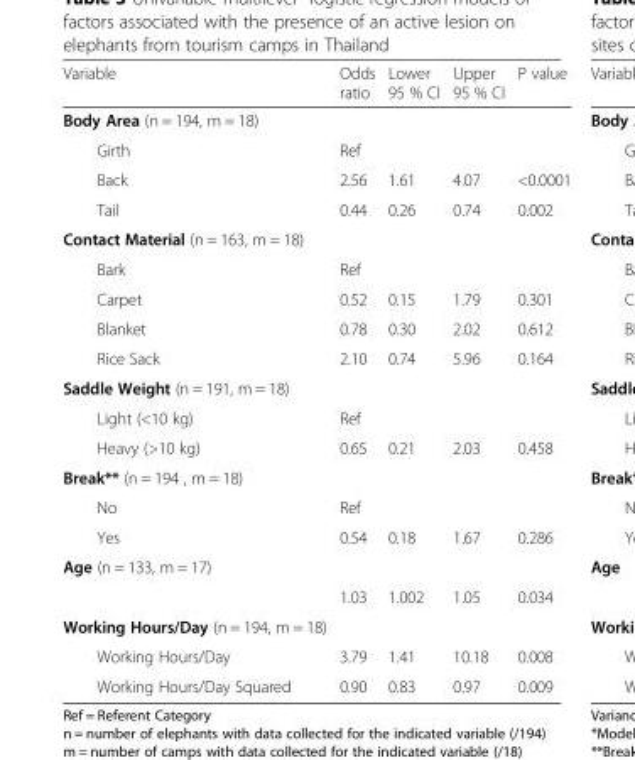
<table><thead><tr><td>Variable</td><td>Odds ratio</td><td>Lower 95 % CI</td><td>Upper 95 % CI</td><td>P value</td></tr></thead><tbody><tr><td colspan="5">Body Area (n = 194, m = 18)</td></tr><tr><td>Girth</td><td>Ref</td><td></td><td></td><td></td></tr><tr><td>Back</td><td>2.56</td><td>1.61</td><td>4.07</td><td>&lt;0.0001</td></tr><tr><td>Tail</td><td>0.44</td><td>0.26</td><td>0.74</td><td>0.002</td></tr><tr><td colspan="5">Contact Material (n = 163, m = 18)</td></tr><tr><td>Bark</td><td>Ref</td><td></td><td></td><td></td></tr><tr><td>Carpet</td><td>0.52</td><td>0.15</td><td>1.79</td><td>0.301</td></tr><tr><td>Blanket</td><td>0.78</td><td>0.30</td><td>2.02</td><td>0.612</td></tr><tr><td>Rice Sack</td><td>2.10</td><td>0.74</td><td>5.96</td><td>0.164</td></tr><tr><td colspan="5">Saddle Weight (n = 191, m = 18)</td></tr><tr><td>Light (&lt;10 kg)</td><td>Ref</td><td></td><td></td><td></td></tr><tr><td>Heavy (&gt;10 kg)</td><td>0.65</td><td>0.21</td><td>2.03</td><td>0.458</td></tr><tr><td colspan="5">Break** (n = 194 , m = 18)</td></tr><tr><td>No</td><td>Ref</td><td></td><td></td><td></td></tr><tr><td>Yes</td><td>0.54</td><td>0.18</td><td>1.67</td><td>0.286</td></tr><tr><td colspan="5">Age (n = 133, m = 17)</td></tr><tr><td></td><td>1.03</td><td>1.002</td><td>1.05</td><td>0.034</td></tr><tr><td colspan="5">Working Hours/Day (n = 194, m = 18)</td></tr><tr><td>Working Hours/Day</td><td>3.79</td><td>1.41</td><td>10.18</td><td>0.008</td></tr><tr><td>Working Hours/Day Squared</td><td>0.90</td><td>0.83</td><td>0.97</td><td>0.009</td></tr></tbody></table>